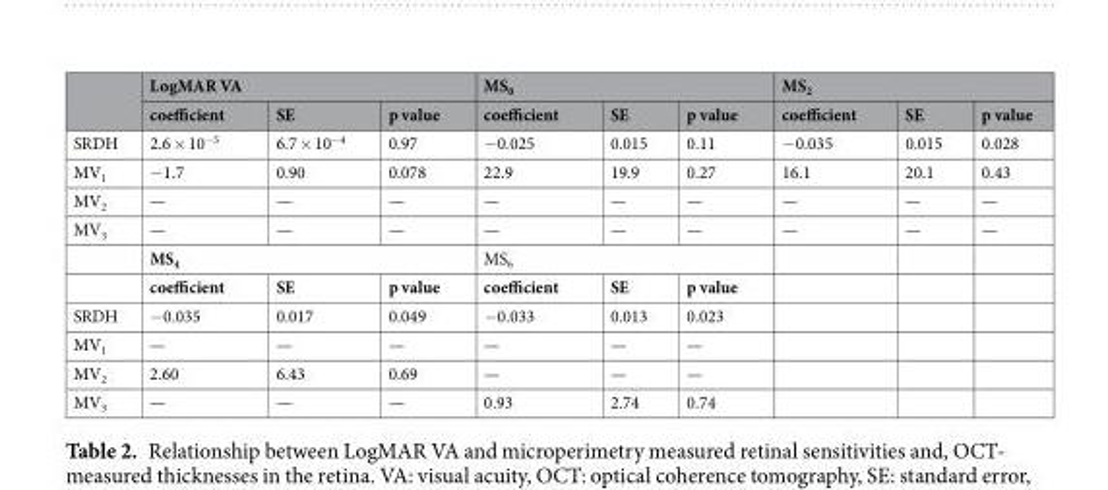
<table><thead><tr><td rowspan="2"></td><td colspan="3">LogMAR VA</td><td colspan="3">MS<sub>0</sub></td><td colspan="3">MS<sub>2</sub></td></tr><tr><td>coefficient</td><td>SE</td><td>p value</td><td>coefficient</td><td>SE</td><td>p value</td><td>coefficient</td><td>SE</td><td>p value</td></tr></thead><tbody><tr><td>SRDH</td><td>2.6 × 10<sup>−5</sup></td><td>6.7 × 10<sup>−4</sup></td><td>0.97</td><td>−0.025</td><td>0.015</td><td>0.11</td><td>−0.035</td><td>0.015</td><td>0.028</td></tr><tr><td>MV<sub>1</sub></td><td>−1.7</td><td>0.90</td><td>0.078</td><td>22.9</td><td>19.9</td><td>0.27</td><td>16.1</td><td>20.1</td><td>0.43</td></tr><tr><td>MV<sub>2</sub></td><td>—</td><td>—</td><td>—</td><td>—</td><td>—</td><td>—</td><td>—</td><td>—</td><td>—</td></tr><tr><td rowspan="3">MV<sub>3</sub></td><td>—</td><td>—</td><td>—</td><td>—</td><td>—</td><td>—</td><td>—</td><td>—</td><td>—</td></tr><tr><td colspan="3">MS<sub>4</sub></td><td colspan="3">MS<sub>6</sub></td><td></td><td></td><td></td></tr><tr><td>coefficient</td><td>SE</td><td>p value</td><td>coefficient</td><td>SE</td><td>p value</td><td></td><td></td><td></td></tr><tr><td>SRDH</td><td>−0.035</td><td>0.017</td><td>0.049</td><td>−0.033</td><td>0.013</td><td>0.023</td><td></td><td></td><td></td></tr><tr><td>MV<sub>1</sub></td><td>—</td><td>—</td><td>—</td><td>—</td><td>—</td><td>—</td><td></td><td></td><td></td></tr><tr><td>MV<sub>2</sub></td><td>2.60</td><td>6.43</td><td>0.69</td><td>—</td><td>—</td><td>—</td><td></td><td></td><td></td></tr><tr><td>MV<sub>3</sub></td><td>—</td><td>—</td><td>—</td><td>0.93</td><td>2.74</td><td>0.74</td><td></td><td></td><td></td></tr></tbody></table>